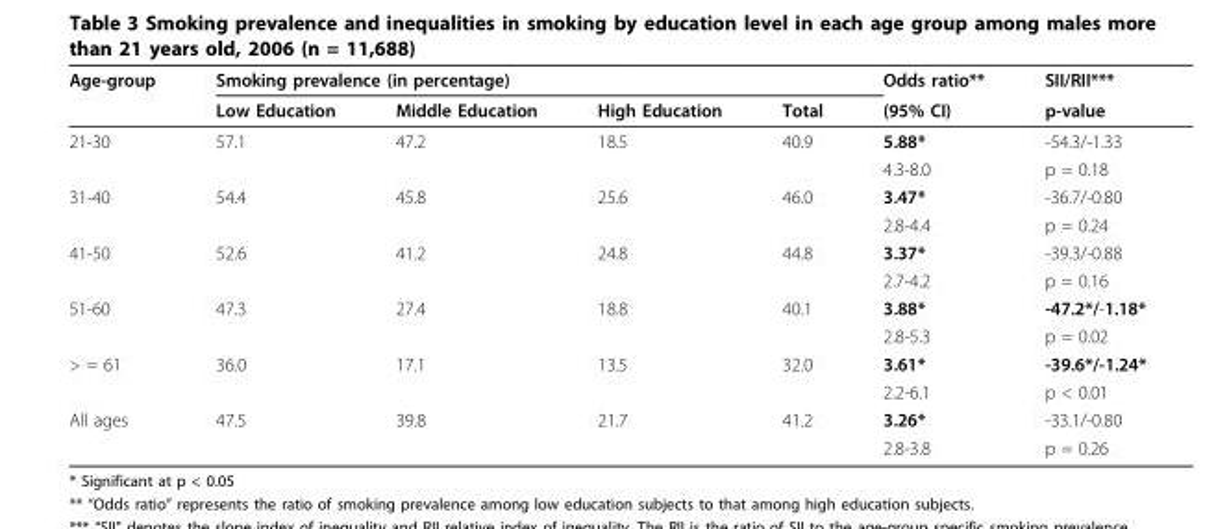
<table><thead><tr><td rowspan="2">Age-group</td><td colspan="4">Smoking prevalence (in percentage)</td><td rowspan="2">Odds ratio** (95% CI)</td><td rowspan="2">SII/RII*** p-value</td></tr><tr><td>Low Education</td><td>Middle Education</td><td>High Education</td><td>Total</td></tr></thead><tbody><tr><td rowspan="2">21-30</td><td>57.1</td><td>47.2</td><td>18.5</td><td>40.9</td><td>5.88*</td><td>-54.3/-1.33</td></tr><tr><td></td><td></td><td></td><td></td><td>4.3-8.0</td><td>p = 0.18</td></tr><tr><td rowspan="2">31-40</td><td>54.4</td><td>45.8</td><td>25.6</td><td>46.0</td><td>3.47*</td><td>-36.7/-0.80</td></tr><tr><td></td><td></td><td></td><td></td><td>2.8-4.4</td><td>p = 0.24</td></tr><tr><td rowspan="2">41-50</td><td>52.6</td><td>41.2</td><td>24.8</td><td>44.8</td><td>3.37*</td><td>-39.3/-0.88</td></tr><tr><td></td><td></td><td></td><td></td><td>2.7-4.2</td><td>p = 0.16</td></tr><tr><td rowspan="2">51-60</td><td>47.3</td><td>27.4</td><td>18.8</td><td>40.1</td><td>3.88*</td><td>-47.2*/-1.18*</td></tr><tr><td></td><td></td><td></td><td></td><td>2.8-5.3</td><td>p = 0.02</td></tr><tr><td rowspan="2">&gt; = 61</td><td>36.0</td><td>17.1</td><td>13.5</td><td>32.0</td><td>3.61*</td><td>-39.6*/-1.24*</td></tr><tr><td></td><td></td><td></td><td></td><td>2.2-6.1</td><td>p &lt; 0.01</td></tr><tr><td rowspan="2">All ages</td><td>47.5</td><td>39.8</td><td>21.7</td><td>41.2</td><td>3.26*</td><td>-33.1/-0.80</td></tr><tr><td></td><td></td><td></td><td></td><td>2.8-3.8</td><td>p = 0.26</td></tr></tbody></table>